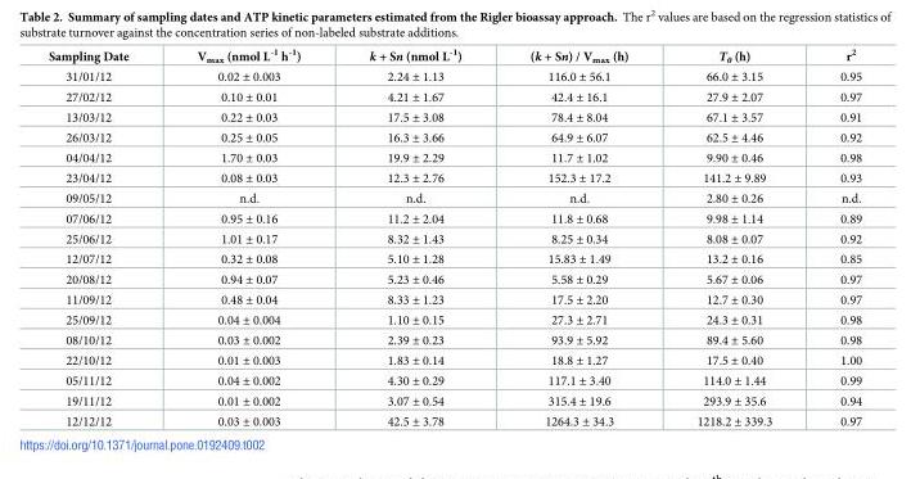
<table><thead><tr><td>Sampling Date</td><td>V<sub>max</sub> (nmol L<sup>-1</sup> h<sup>-1</sup>)</td><td>k + Sn (nmol L<sup>-1</sup>)</td><td>(k + Sn) / V<sub>max</sub> (h)</td><td>T<sub>0</sub> (h)</td><td>r<sup>2</sup></td></tr></thead><tbody><tr><td>31/01/12</td><td>0.02 ± 0.003</td><td>2.24 ± 1.13</td><td>116.0 ± 56.1</td><td>66.0 ± 3.15</td><td>0.95</td></tr><tr><td>27/02/12</td><td>0.10 ± 0.01</td><td>4.21 ± 1.67</td><td>42.4 ± 16.1</td><td>27.9 ± 2.07</td><td>0.97</td></tr><tr><td>13/03/12</td><td>0.22 ± 0.03</td><td>17.5 ± 3.08</td><td>78.4 ± 8.04</td><td>67.1 ± 3.57</td><td>0.91</td></tr><tr><td>26/03/12</td><td>0.25 ± 0.05</td><td>16.3 ± 3.66</td><td>64.9 ± 6.07</td><td>62.5 ± 4.46</td><td>0.92</td></tr><tr><td>04/04/12</td><td>1.70 ± 0.03</td><td>19.9 ± 2.29</td><td>11.7 ± 1.02</td><td>9.90 ± 0.46</td><td>0.98</td></tr><tr><td>23/04/12</td><td>0.08 ± 0.03</td><td>12.3 ± 2.76</td><td>152.3 ± 17.2</td><td>141.2 ± 9.89</td><td>0.93</td></tr><tr><td>09/05/12</td><td>n.d.</td><td>n.d.</td><td>n.d.</td><td>2.80 ± 0.26</td><td>n.d.</td></tr><tr><td>07/06/12</td><td>0.95 ± 0.16</td><td>11.2 ± 2.04</td><td>11.8 ± 0.68</td><td>9.98 ± 1.14</td><td>0.89</td></tr><tr><td>25/06/12</td><td>1.01 ± 0.17</td><td>8.32 ± 1.43</td><td>8.25 ± 0.34</td><td>8.08 ± 0.07</td><td>0.92</td></tr><tr><td>12/07/12</td><td>0.32 ± 0.08</td><td>5.10 ± 1.28</td><td>15.83 ± 1.49</td><td>13.2 ± 0.16</td><td>0.85</td></tr><tr><td>20/08/12</td><td>0.94 ± 0.07</td><td>5.23 ± 0.46</td><td>5.58 ± 0.29</td><td>5.67 ± 0.06</td><td>0.97</td></tr><tr><td>11/09/12</td><td>0.48 ± 0.04</td><td>8.33 ± 1.23</td><td>17.5 ± 2.20</td><td>12.7 ± 0.30</td><td>0.97</td></tr><tr><td>25/09/12</td><td>0.04 ± 0.004</td><td>1.10 ± 0.15</td><td>27.3 ± 2.71</td><td>24.3 ± 0.31</td><td>0.98</td></tr><tr><td>08/10/12</td><td>0.03 ± 0.002</td><td>2.39 ± 0.23</td><td>93.9 ± 5.92</td><td>89.4 ± 5.60</td><td>0.98</td></tr><tr><td>22/10/12</td><td>0.01 ± 0.003</td><td>1.83 ± 0.14</td><td>18.8 ± 1.27</td><td>17.5 ± 0.40</td><td>1.00</td></tr><tr><td>05/11/12</td><td>0.04 ± 0.002</td><td>4.30 ± 0.29</td><td>117.1 ± 3.40</td><td>114.0 ± 1.44</td><td>0.99</td></tr><tr><td>19/11/12</td><td>0.01 ± 0.002</td><td>3.07 ± 0.54</td><td>315.4 ± 19.6</td><td>293.9 ± 35.6</td><td>0.94</td></tr><tr><td>12/12/12</td><td>0.03 ± 0.003</td><td>42.5 ± 3.78</td><td>1264.3 ± 34.3</td><td>1218.2 ± 339.3</td><td>0.97</td></tr></tbody></table>